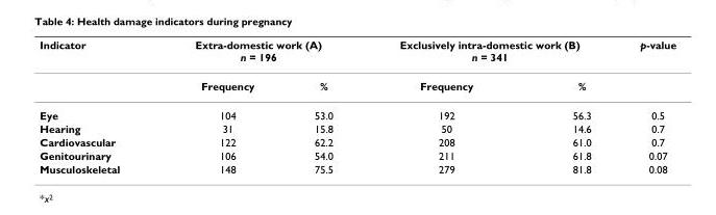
<table><thead><tr><td rowspan="2">Indicator</td><td colspan="2">Extra-domestic work (A) n = 196</td><td colspan="2">Exclusively intra-domestic work (B) n = 341</td><td rowspan="2">p-value</td></tr><tr><td>Frequency</td><td>%</td><td>Frequency</td><td>%</td></tr></thead><tbody><tr><td>Eye</td><td>104</td><td>53.0</td><td>192</td><td>56.3</td><td>0.5</td></tr><tr><td>Hearing</td><td>31</td><td>15.8</td><td>50</td><td>14.6</td><td>0.7</td></tr><tr><td>Cardiovascular</td><td>122</td><td>62.2</td><td>208</td><td>61.0</td><td>0.7</td></tr><tr><td>Genitourinary</td><td>106</td><td>54.0</td><td>211</td><td>61.8</td><td>0.07</td></tr><tr><td>Musculoskeletal</td><td>148</td><td>75.5</td><td>279</td><td>81.8</td><td>0.08</td></tr></tbody></table>